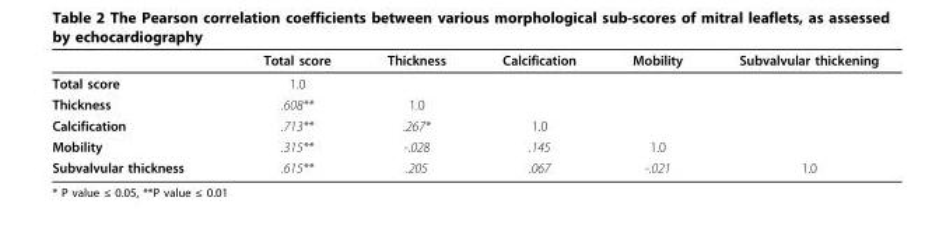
<table><thead><tr><td></td><td>Total score</td><td>Thickness</td><td>Calcification</td><td>Mobility</td><td>Subvalvular thickening</td></tr></thead><tbody><tr><td>Total score</td><td>1.0</td><td></td><td></td><td></td><td></td></tr><tr><td>Thickness</td><td>.608**</td><td>1.0</td><td></td><td></td><td></td></tr><tr><td>Calcification</td><td>.713**</td><td>.267*</td><td>1.0</td><td></td><td></td></tr><tr><td>Mobility</td><td>.315**</td><td>-.028</td><td>.145</td><td>1.0</td><td></td></tr><tr><td>Subvalvular thickness</td><td>.615**</td><td>.205</td><td>.067</td><td>-.021</td><td>1.0</td></tr></tbody></table>